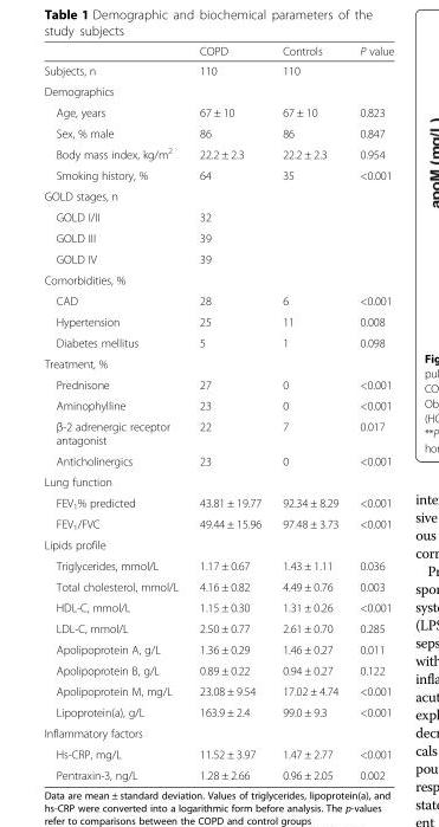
<table><thead><tr><td></td><td>COPD</td><td>Controls</td><td>P value</td></tr></thead><tbody><tr><td>Subjects, n</td><td>110</td><td>110</td><td></td></tr><tr><td colspan="4">Demographics</td></tr><tr><td>Age, years</td><td>67 ± 10</td><td>67 ± 10</td><td>0.823</td></tr><tr><td>Sex, % male</td><td>86</td><td>86</td><td>0.847</td></tr><tr><td>Body mass index, kg/m<sup>2</sup></td><td>22.2 ± 2.3</td><td>22.2 ± 2.3</td><td>0.954</td></tr><tr><td>Smoking history, %</td><td>64</td><td>35</td><td>&lt;0.001</td></tr><tr><td colspan="4">GOLD stages, n</td></tr><tr><td>GOLD I/II</td><td>32</td><td></td><td></td></tr><tr><td>GOLD III</td><td>39</td><td></td><td></td></tr><tr><td>GOLD IV</td><td>39</td><td></td><td></td></tr><tr><td colspan="4">Comorbidities, %</td></tr><tr><td>CAD</td><td>28</td><td>6</td><td>&lt;0.001</td></tr><tr><td>Hypertension</td><td>25</td><td>11</td><td>0.008</td></tr><tr><td>Diabetes mellitus</td><td>5</td><td>1</td><td>0.098</td></tr><tr><td colspan="4">Treatment, %</td></tr><tr><td>Prednisone</td><td>27</td><td>0</td><td>&lt;0.001</td></tr><tr><td>Aminophylline</td><td>23</td><td>0</td><td>&lt;0.001</td></tr><tr><td>β-2 adrenergic receptor antagonist</td><td>22</td><td>7</td><td>0.017</td></tr><tr><td>Anticholinergics</td><td>23</td><td>0</td><td>&lt;0.001</td></tr><tr><td colspan="4">Lung function</td></tr><tr><td>FEV<sub>1</sub>% predicted</td><td>43.81 ± 19.77</td><td>92.34 ± 8.29</td><td>&lt;0.001</td></tr><tr><td>FEV<sub>1</sub>/FVC</td><td>49.44 ± 15.96</td><td>97.48 ± 3.73</td><td>&lt;0.001</td></tr><tr><td colspan="4">Lipids profile</td></tr><tr><td>Triglycerides, mmol/L</td><td>1.17 ± 0.67</td><td>1.43 ± 1.11</td><td>0.036</td></tr><tr><td>Total cholesterol, mmol/L</td><td>4.16 ± 0.82</td><td>4.49 ± 0.76</td><td>0.003</td></tr><tr><td>HDL-C, mmol/L</td><td>1.15 ± 0.30</td><td>1.31 ± 0.26</td><td>&lt;0.001</td></tr><tr><td>LDL-C, mmol/L</td><td>2.50 ± 0.77</td><td>2.61 ± 0.70</td><td>0.285</td></tr><tr><td>Apolipoprotein A, g/L</td><td>1.36 ± 0.29</td><td>1.46 ± 0.27</td><td>0.011</td></tr><tr><td>Apolipoprotein B, g/L</td><td>0.89 ± 0.22</td><td>0.94 ± 0.27</td><td>0.122</td></tr><tr><td>Apolipoprotein M, mg/L</td><td>23.08 ± 9.54</td><td>17.02 ± 4.74</td><td>&lt;0.001</td></tr><tr><td>Lipoprotein(a), g/L</td><td>163.9 ± 2.4</td><td>99.0 ± 9.3</td><td>&lt;0.001</td></tr><tr><td colspan="4">Inflammatory factors</td></tr><tr><td>Hs-CRP, mg/L</td><td>11.52 ± 3.97</td><td>1.47 ± 2.77</td><td>&lt;0.001</td></tr><tr><td>Pentraxin-3, ng/L</td><td>1.28 ± 2.66</td><td>0.96 ± 2.05</td><td>0.002</td></tr></tbody></table>